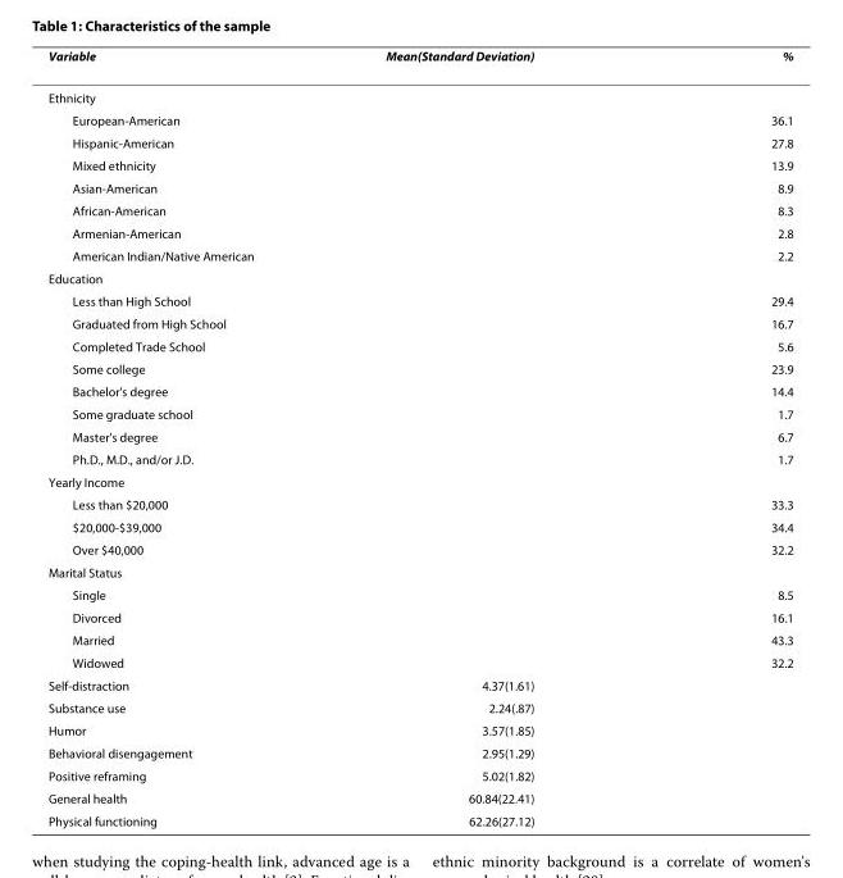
<table><thead><tr><td>Variable</td><td>Mean(Standard Deviation)</td><td>%</td></tr></thead><tbody><tr><td colspan="3">Ethnicity</td></tr><tr><td>European-American</td><td></td><td>36.1</td></tr><tr><td>Hispanic-American</td><td></td><td>27.8</td></tr><tr><td>Mixed ethnicity</td><td></td><td>13.9</td></tr><tr><td>Asian-American</td><td></td><td>8.9</td></tr><tr><td>African-American</td><td></td><td>8.3</td></tr><tr><td>Armenian-American</td><td></td><td>2.8</td></tr><tr><td>American Indian/Native American</td><td></td><td>2.2</td></tr><tr><td colspan="3">Education</td></tr><tr><td>Less than High School</td><td></td><td>29.4</td></tr><tr><td>Graduated from High School</td><td></td><td>16.7</td></tr><tr><td>Completed Trade School</td><td></td><td>5.6</td></tr><tr><td>Some college</td><td></td><td>23.9</td></tr><tr><td>Bachelor&#x27;s degree</td><td></td><td>14.4</td></tr><tr><td>Some graduate school</td><td></td><td>1.7</td></tr><tr><td>Master&#x27;s degree</td><td></td><td>6.7</td></tr><tr><td>Ph.D., M.D., and/or J.D.</td><td></td><td>1.7</td></tr><tr><td colspan="3">Yearly Income</td></tr><tr><td>Less than $20,000</td><td></td><td>33.3</td></tr><tr><td>$20,000-$39,000</td><td></td><td>34.4</td></tr><tr><td>Over $40,000</td><td></td><td>32.2</td></tr><tr><td colspan="3">Marital Status</td></tr><tr><td>Single</td><td></td><td>8.5</td></tr><tr><td>Divorced</td><td></td><td>16.1</td></tr><tr><td>Married</td><td></td><td>43.3</td></tr><tr><td>Widowed</td><td></td><td>32.2</td></tr><tr><td>Self-distraction</td><td>4.37(1.61)</td><td></td></tr><tr><td>Substance use</td><td>2.24(.87)</td><td></td></tr><tr><td>Humor</td><td>3.57(1.85)</td><td></td></tr><tr><td>Behavioral disengagement</td><td>2.95(1.29)</td><td></td></tr><tr><td>Positive reframing</td><td>5.02(1.82)</td><td></td></tr><tr><td>General health</td><td>60.84(22.41)</td><td></td></tr><tr><td>Physical functioning</td><td>62.26(27.12)</td><td></td></tr></tbody></table>